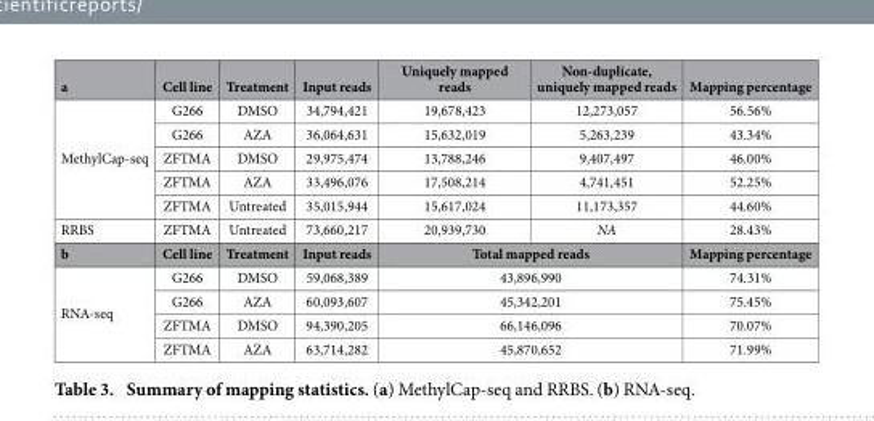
<table><thead><tr><td>a</td><td>Cell line</td><td>Treatment</td><td>Input reads</td><td>Uniquely mapped reads</td><td>Non-duplicate, uniquely mapped reads</td><td>Mapping percentage</td></tr></thead><tbody><tr><td rowspan="5">MethylCap-seq</td><td>G266</td><td>DMSO</td><td>34,794,421</td><td>19,678,423</td><td>12,273,057</td><td>56.56%</td></tr><tr><td>G266</td><td>AZA</td><td>36,064,631</td><td>15,632,019</td><td>5,263,239</td><td>43.34%</td></tr><tr><td>ZFTMA</td><td>DMSO</td><td>29,975,474</td><td>13,788,246</td><td>9,407,497</td><td>46.00%</td></tr><tr><td>ZFTMA</td><td>AZA</td><td>33,496,076</td><td>17,508,214</td><td>4,741,451</td><td>52.25%</td></tr><tr><td>ZFTMA</td><td>Untreated</td><td>35,015,944</td><td>15,617,024</td><td>11,173,357</td><td>44.60%</td></tr><tr><td>RRBS</td><td>ZFTMA</td><td>Untreated</td><td>73,660,217</td><td>20,939,730</td><td>NA</td><td>28.43%</td></tr><tr><td>b</td><td>Cell line</td><td>Treatment</td><td>Input reads</td><td colspan="2">Total mapped reads</td><td>Mapping percentage</td></tr><tr><td rowspan="4">RNA-seq</td><td>G266</td><td>DMSO</td><td>59,068,389</td><td colspan="2">43,896,990</td><td>74.31%</td></tr><tr><td>G266</td><td>AZA</td><td>60,093,607</td><td colspan="2">45,342,201</td><td>75.45%</td></tr><tr><td>ZFTMA</td><td>DMSO</td><td>94,390,205</td><td colspan="2">66,146,096</td><td>70.07%</td></tr><tr><td>ZFTMA</td><td>AZA</td><td>63,714,282</td><td colspan="2">45,870,652</td><td>71.99%</td></tr></tbody></table>